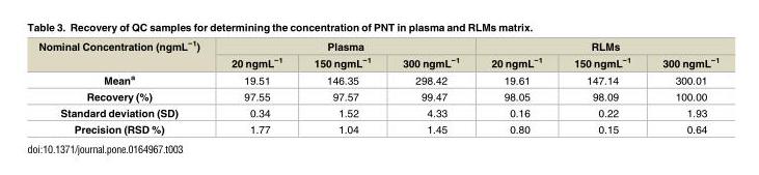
<table><thead><tr><td rowspan="2">Nominal Concentration (ngmL<sup>−1</sup>)</td><td colspan="3">Plasma</td><td colspan="3">RLMs</td></tr><tr><td>20 ngmL<sup>−1</sup></td><td>150 ngmL<sup>−1</sup></td><td>300 ngmL<sup>−1</sup></td><td>20 ngmL<sup>−1</sup></td><td>150 ngmL<sup>−1</sup></td><td>300 ngmL<sup>−1</sup></td></tr></thead><tbody><tr><td>Mean<sup>a</sup></td><td>19.51</td><td>146.35</td><td>298.42</td><td>19.61</td><td>147.14</td><td>300.01</td></tr><tr><td>Recovery (%)</td><td>97.55</td><td>97.57</td><td>99.47</td><td>98.05</td><td>98.09</td><td>100.00</td></tr><tr><td>Standard deviation (SD)</td><td>0.34</td><td>1.52</td><td>4.33</td><td>0.16</td><td>0.22</td><td>1.93</td></tr><tr><td>Precision (RSD %)</td><td>1.77</td><td>1.04</td><td>1.45</td><td>0.80</td><td>0.15</td><td>0.64</td></tr></tbody></table>